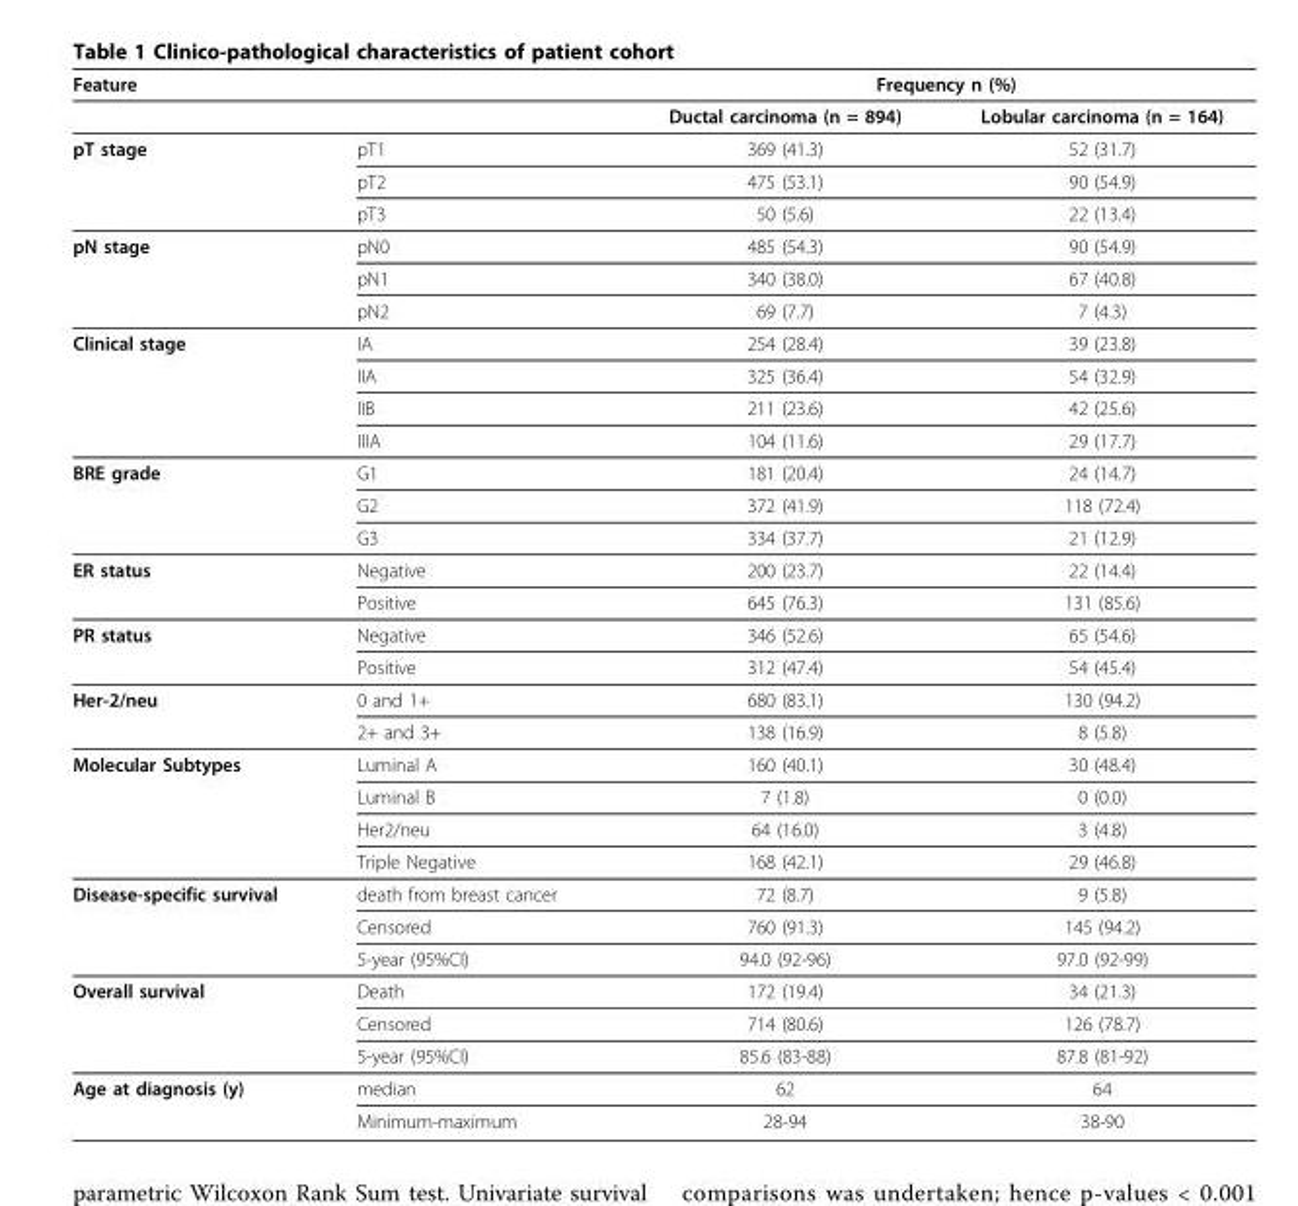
<table><thead><tr><td rowspan="2">Feature</td><td rowspan="2"></td><td colspan="2">Frequency n (%)</td></tr><tr><td>Ductal carcinoma (n = 894)</td><td>Lobular carcinoma (n = 164)</td></tr></thead><tbody><tr><td rowspan="3">pT stage</td><td>pT1</td><td>369 (41.3)</td><td>52 (31.7)</td></tr><tr><td>pT2</td><td>475 (53.1)</td><td>90 (54.9)</td></tr><tr><td>pT3</td><td>50 (5.6)</td><td>22 (13.4)</td></tr><tr><td rowspan="3">pN stage</td><td>pN0</td><td>485 (54.3)</td><td>90 (54.9)</td></tr><tr><td>pN1</td><td>340 (38.0)</td><td>67 (40.8)</td></tr><tr><td>pN2</td><td>69 (7.7)</td><td>7 (4.3)</td></tr><tr><td rowspan="4">Clinical stage</td><td>IA</td><td>254 (28.4)</td><td>39 (23.8)</td></tr><tr><td>IIA</td><td>325 (36.4)</td><td>54 (32.9)</td></tr><tr><td>IIB</td><td>211 (23.6)</td><td>42 (25.6)</td></tr><tr><td>IIIA</td><td>104 (11.6)</td><td>29 (17.7)</td></tr><tr><td rowspan="3">BRE grade</td><td>G1</td><td>181 (20.4)</td><td>24 (14.7)</td></tr><tr><td>G2</td><td>372 (41.9)</td><td>118 (72.4)</td></tr><tr><td>G3</td><td>334 (37.7)</td><td>21 (12.9)</td></tr><tr><td rowspan="2">ER status</td><td>Negative</td><td>200 (23.7)</td><td>22 (14.4)</td></tr><tr><td>Positive</td><td>645 (76.3)</td><td>131 (85.6)</td></tr><tr><td rowspan="2">PR status</td><td>Negative</td><td>346 (52.6)</td><td>65 (54.6)</td></tr><tr><td>Positive</td><td>312 (47.4)</td><td>54 (45.4)</td></tr><tr><td rowspan="2">Her-2/neu</td><td>0 and 1+</td><td>680 (83.1)</td><td>130 (94.2)</td></tr><tr><td>2+ and 3+</td><td>138 (16.9)</td><td>8 (5.8)</td></tr><tr><td rowspan="4">Molecular Subtypes</td><td>Luminal A</td><td>160 (40.1)</td><td>30 (48.4)</td></tr><tr><td>Luminal B</td><td>7 (1.8)</td><td>0 (0.0)</td></tr><tr><td>Her2/neu</td><td>64 (16.0)</td><td>3 (4.8)</td></tr><tr><td>Triple Negative</td><td>168 (42.1)</td><td>29 (46.8)</td></tr><tr><td rowspan="3">Disease-specific survival</td><td>death from breast cancer</td><td>72 (8.7)</td><td>9 (5.8)</td></tr><tr><td>Censored</td><td>760 (91.3)</td><td>145 (94.2)</td></tr><tr><td>5-year (95%CI)</td><td>94.0 (92-96)</td><td>97.0 (92-99)</td></tr><tr><td rowspan="3">Overall survival</td><td>Death</td><td>172 (19.4)</td><td>34 (21.3)</td></tr><tr><td>Censored</td><td>714 (80.6)</td><td>126 (78.7)</td></tr><tr><td>5-year (95%CI)</td><td>85.6 (83-88)</td><td>87.8 (81-92)</td></tr><tr><td rowspan="2">Age at diagnosis (y)</td><td>median</td><td>62</td><td>64</td></tr><tr><td>Minimum-maximum</td><td>28-94</td><td>38-90</td></tr></tbody></table>